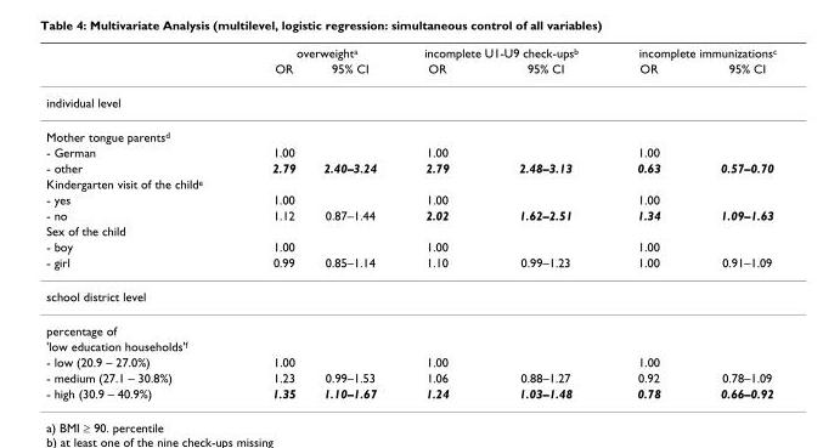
<table><thead><tr><td rowspan="2"></td><td colspan="2">overweight<sup>a</sup></td><td colspan="2">incomplete U1-U9 check-ups<sup>b</sup></td><td colspan="2">incomplete immunizations<sup>c</sup></td></tr><tr><td>OR</td><td>95% CI</td><td>OR</td><td>95% CI</td><td>OR</td><td>95% CI</td></tr></thead><tbody><tr><td colspan="7">individual level</td></tr><tr><td colspan="7">Mother tongue parents<sup>d</sup></td></tr><tr><td>- German</td><td>1.00</td><td></td><td>1.00</td><td></td><td>1.00</td><td></td></tr><tr><td>- other</td><td>2.79</td><td>2.40–3.24</td><td>2.79</td><td>2.48–3.13</td><td>0.63</td><td>0.57–0.70</td></tr><tr><td colspan="7">Kindergarten visit of the child<sup>e</sup></td></tr><tr><td>- yes</td><td>1.00</td><td></td><td>1.00</td><td></td><td>1.00</td><td></td></tr><tr><td>- no</td><td>1.12</td><td>0.87–1.44</td><td>2.02</td><td>1.62–2.51</td><td>1.34</td><td>1.09–1.63</td></tr><tr><td colspan="7">Sex of the child</td></tr><tr><td>- boy</td><td>1.00</td><td></td><td>1.00</td><td></td><td>1.00</td><td></td></tr><tr><td>- girl</td><td>0.99</td><td>0.85–1.14</td><td>1.10</td><td>0.99–1.23</td><td>1.00</td><td>0.91–1.09</td></tr><tr><td colspan="7">school district level</td></tr><tr><td colspan="7">percentage of</td></tr><tr><td colspan="7">&#x27;low education households&#x27;<sup>f</sup></td></tr><tr><td>- low (20.9 – 27.0%)</td><td>1.00</td><td></td><td>1.00</td><td></td><td>1.00</td><td></td></tr><tr><td>- medium (27.1 – 30.8%)</td><td>1.23</td><td>0.99–1.53</td><td>1.06</td><td>0.88–1.27</td><td>0.92</td><td>0.78–1.09</td></tr><tr><td>- high (30.9 – 40.9%)</td><td>1.35</td><td>1.10–1.67</td><td>1.24</td><td>1.03–1.48</td><td>0.78</td><td>0.66–0.92</td></tr></tbody></table>